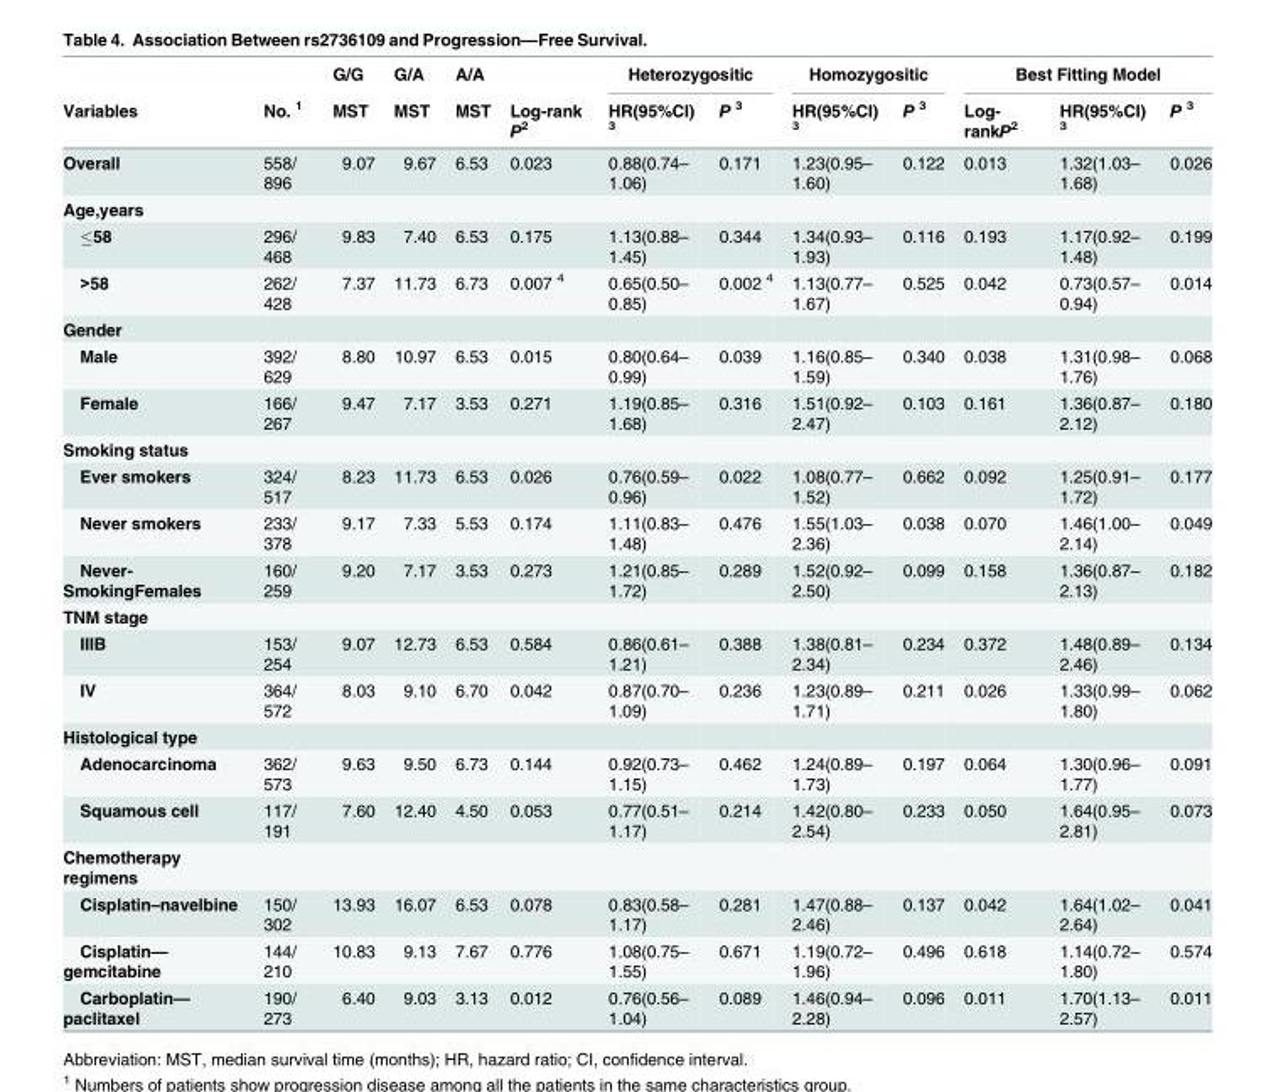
<table><thead><tr><td rowspan="2">Variables</td><td rowspan="2">No. <sup>1</sup></td><td rowspan="2">G/G MST</td><td rowspan="2">G/A MST</td><td rowspan="2">A/A MST</td><td rowspan="2">Log-rank P<sup>2</sup></td><td colspan="2">Heterozygositic</td><td colspan="2">Homozygositic</td><td colspan="3">Best Fitting Model</td></tr><tr><td>HR(95%CI) <sup>3</sup></td><td>P <sup>3</sup></td><td>HR(95%CI) <sup>3</sup></td><td>P <sup>3</sup></td><td>Log- rankP<sup>2</sup></td><td>HR(95%CI) <sup>3</sup></td><td>P <sup>3</sup></td></tr></thead><tbody><tr><td>Overall</td><td>558/ 896</td><td>9.07</td><td>9.67</td><td>6.53</td><td>0.023</td><td>0.88(0.74– 1.06)</td><td>0.171</td><td>1.23(0.95– 1.60)</td><td>0.122</td><td>0.013</td><td>1.32(1.03– 1.68)</td><td>0.026</td></tr><tr><td colspan="13">Age,years</td></tr><tr><td>≤58</td><td>296/ 468</td><td>9.83</td><td>7.40</td><td>6.53</td><td>0.175</td><td>1.13(0.88– 1.45)</td><td>0.344</td><td>1.34(0.93– 1.93)</td><td>0.116</td><td>0.193</td><td>1.17(0.92– 1.48)</td><td>0.199</td></tr><tr><td>&gt;58</td><td>262/ 428</td><td>7.37</td><td>11.73</td><td>6.73</td><td>0.007 <sup>4</sup></td><td>0.65(0.50– 0.85)</td><td>0.002 <sup>4</sup></td><td>1.13(0.77– 1.67)</td><td>0.525</td><td>0.042</td><td>0.73(0.57– 0.94)</td><td>0.014</td></tr><tr><td colspan="13">Gender</td></tr><tr><td>Male</td><td>392/ 629</td><td>8.80</td><td>10.97</td><td>6.53</td><td>0.015</td><td>0.80(0.64– 0.99)</td><td>0.039</td><td>1.16(0.85– 1.59)</td><td>0.340</td><td>0.038</td><td>1.31(0.98– 1.76)</td><td>0.068</td></tr><tr><td>Female</td><td>166/ 267</td><td>9.47</td><td>7.17</td><td>3.53</td><td>0.271</td><td>1.19(0.85– 1.68)</td><td>0.316</td><td>1.51(0.92– 2.47)</td><td>0.103</td><td>0.161</td><td>1.36(0.87– 2.12)</td><td>0.180</td></tr><tr><td colspan="13">Smoking status</td></tr><tr><td>Ever smokers</td><td>324/ 517</td><td>8.23</td><td>11.73</td><td>6.53</td><td>0.026</td><td>0.76(0.59– 0.96)</td><td>0.022</td><td>1.08(0.77– 1.52)</td><td>0.662</td><td>0.092</td><td>1.25(0.91– 1.72)</td><td>0.177</td></tr><tr><td>Never smokers</td><td>233/ 378</td><td>9.17</td><td>7.33</td><td>5.53</td><td>0.174</td><td>1.11(0.83– 1.48)</td><td>0.476</td><td>1.55(1.03– 2.36)</td><td>0.038</td><td>0.070</td><td>1.46(1.00– 2.14)</td><td>0.049</td></tr><tr><td>Never- SmokingFemales</td><td>160/ 259</td><td>9.20</td><td>7.17</td><td>3.53</td><td>0.273</td><td>1.21(0.85– 1.72)</td><td>0.289</td><td>1.52(0.92– 2.50)</td><td>0.099</td><td>0.158</td><td>1.36(0.87– 2.13)</td><td>0.182</td></tr><tr><td colspan="13">TNM stage</td></tr><tr><td>IIIB</td><td>153/ 254</td><td>9.07</td><td>12.73</td><td>6.53</td><td>0.584</td><td>0.86(0.61– 1.21)</td><td>0.388</td><td>1.38(0.81– 2.34)</td><td>0.234</td><td>0.372</td><td>1.48(0.89– 2.46)</td><td>0.134</td></tr><tr><td>IV</td><td>364/ 572</td><td>8.03</td><td>9.10</td><td>6.70</td><td>0.042</td><td>0.87(0.70– 1.09)</td><td>0.236</td><td>1.23(0.89– 1.71)</td><td>0.211</td><td>0.026</td><td>1.33(0.99– 1.80)</td><td>0.062</td></tr><tr><td colspan="13">Histological type</td></tr><tr><td>Adenocarcinoma</td><td>362/ 573</td><td>9.63</td><td>9.50</td><td>6.73</td><td>0.144</td><td>0.92(0.73– 1.15)</td><td>0.462</td><td>1.24(0.89– 1.73)</td><td>0.197</td><td>0.064</td><td>1.30(0.96– 1.77)</td><td>0.091</td></tr><tr><td>Squamous cell</td><td>117/ 191</td><td>7.60</td><td>12.40</td><td>4.50</td><td>0.053</td><td>0.77(0.51– 1.17)</td><td>0.214</td><td>1.42(0.80– 2.54)</td><td>0.233</td><td>0.050</td><td>1.64(0.95– 2.81)</td><td>0.073</td></tr><tr><td colspan="13">Chemotherapy regimens</td></tr><tr><td>Cisplatin–navelbine</td><td>150/ 302</td><td>13.93</td><td>16.07</td><td>6.53</td><td>0.078</td><td>0.83(0.58– 1.17)</td><td>0.281</td><td>1.47(0.88– 2.46)</td><td>0.137</td><td>0.042</td><td>1.64(1.02– 2.64)</td><td>0.041</td></tr><tr><td>Cisplatin— gemcitabine</td><td>144/ 210</td><td>10.83</td><td>9.13</td><td>7.67</td><td>0.776</td><td>1.08(0.75– 1.55)</td><td>0.671</td><td>1.19(0.72– 1.96)</td><td>0.496</td><td>0.618</td><td>1.14(0.72– 1.80)</td><td>0.574</td></tr><tr><td>Carboplatin— paclitaxel</td><td>190/ 273</td><td>6.40</td><td>9.03</td><td>3.13</td><td>0.012</td><td>0.76(0.56– 1.04)</td><td>0.089</td><td>1.46(0.94– 2.28)</td><td>0.096</td><td>0.011</td><td>1.70(1.13– 2.57)</td><td>0.011</td></tr></tbody></table>